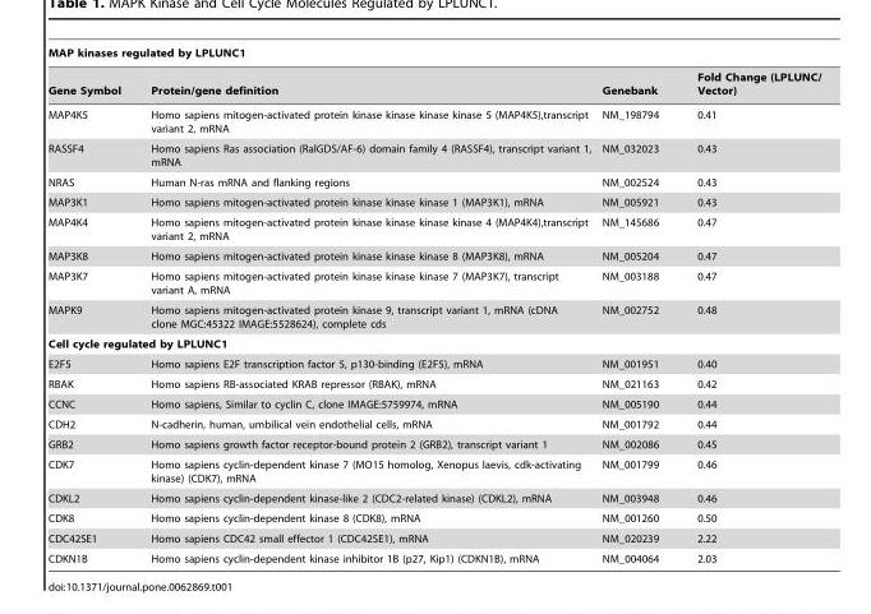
<table><thead><tr><td colspan="4">MAP kinases regulated by LPLUNC1</td></tr><tr><td>Gene Symbol</td><td>Protein/gene definition</td><td>Genebank</td><td>Fold Change (LPLUNC/ Vector)</td></tr></thead><tbody><tr><td>MAP4K5</td><td>Homo sapiens mitogen-activated protein kinase kinase kinase kinase 5 (MAP4K5),transcript variant 2, mRNA</td><td>NM_198794</td><td>0.41</td></tr><tr><td>RASSF4</td><td>Homo sapiens Ras association (RalGDS/AF-6) domain family 4 (RASSF4), transcript variant 1, mRNA</td><td>NM_032023</td><td>0.43</td></tr><tr><td>NRAS</td><td>Human N-ras mRNA and flanking regions</td><td>NM_002524</td><td>0.43</td></tr><tr><td>MAP3K1</td><td>Homo sapiens mitogen-activated protein kinase kinase kinase 1 (MAP3K1), mRNA</td><td>NM_005921</td><td>0.43</td></tr><tr><td>MAP4K4</td><td>Homo sapiens mitogen-activated protein kinase kinase kinase kinase 4 (MAP4K4),transcript variant 2, mRNA</td><td>NM_145686</td><td>0.47</td></tr><tr><td>MAP3K8</td><td>Homo sapiens mitogen-activated protein kinase kinase kinase 8 (MAP3K8), mRNA</td><td>NM_005204</td><td>0.47</td></tr><tr><td>MAP3K7</td><td>Homo sapiens mitogen-activated protein kinase kinase kinase 7 (MAP3K7), transcript variant A, mRNA</td><td>NM_003188</td><td>0.47</td></tr><tr><td>MAPK9</td><td>Homo sapiens mitogen-activated protein kinase 9, transcript variant 1, mRNA (cDNA clone MGC:45322 IMAGE:5528624), complete cds</td><td>NM_002752</td><td>0.48</td></tr><tr><td colspan="4">Cell cycle regulated by LPLUNC1</td></tr><tr><td>E2F5</td><td>Homo sapiens E2F transcription factor 5, p130-binding (E2F5), mRNA</td><td>NM_001951</td><td>0.40</td></tr><tr><td>RBAK</td><td>Homo sapiens RB-associated KRAB repressor (RBAK), mRNA</td><td>NM_021163</td><td>0.42</td></tr><tr><td>CCNC</td><td>Homo sapiens, Similar to cyclin C, clone IMAGE:5759974, mRNA</td><td>NM_005190</td><td>0.44</td></tr><tr><td>CDH2</td><td>N-cadherin, human, umbilical vein endothelial cells, mRNA</td><td>NM_001792</td><td>0.44</td></tr><tr><td>GRB2</td><td>Homo sapiens growth factor receptor-bound protein 2 (GRB2), transcript variant 1</td><td>NM_002086</td><td>0.45</td></tr><tr><td>CDK7</td><td>Homo sapiens cyclin-dependent kinase 7 (MO15 homolog, Xenopus laevis, cdk-activating kinase) (CDK7), mRNA</td><td>NM_001799</td><td>0.46</td></tr><tr><td>CDKL2</td><td>Homo sapiens cyclin-dependent kinase-like 2 (CDC2-related kinase) (CDKL2), mRNA</td><td>NM_003948</td><td>0.46</td></tr><tr><td>CDK8</td><td>Homo sapiens cyclin-dependent kinase 8 (CDK8), mRNA</td><td>NM_001260</td><td>0.50</td></tr><tr><td>CDC42SE1</td><td>Homo sapiens CDC42 small effector 1 (CDC42SE1), mRNA</td><td>NM_020239</td><td>2.22</td></tr><tr><td>CDKN1B</td><td>Homo sapiens cyclin-dependent kinase inhibitor 1B (p27, Kip1) (CDKN1B), mRNA</td><td>NM_004064</td><td>2.03</td></tr></tbody></table>